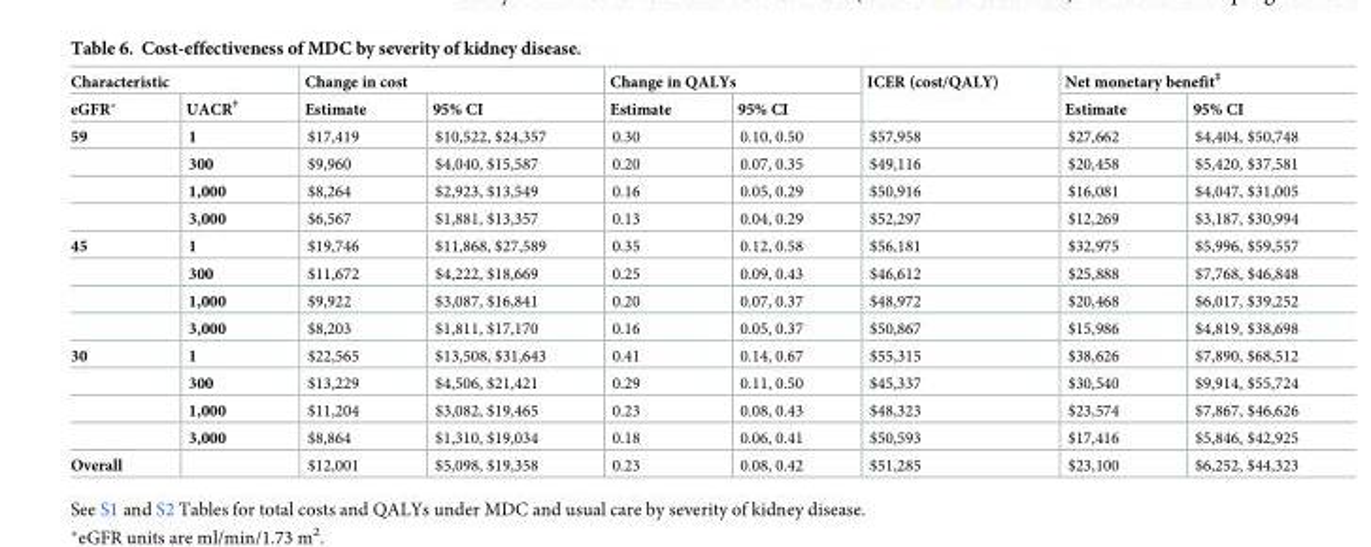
<table><thead><tr><td colspan="2">Characteristic</td><td colspan="2">Change in cost</td><td colspan="2">Change in QALYs</td><td rowspan="2">ICER (cost/QALY)</td><td colspan="2">Net monetary benefit<sup>‡</sup></td></tr><tr><td>eGFR*</td><td>UACR<sup>†</sup></td><td>Estimate</td><td>95% CI</td><td>Estimate</td><td>95% CI</td><td>Estimate</td><td>95% CI</td></tr></thead><tbody><tr><td rowspan="4">59</td><td>1</td><td>$17,419</td><td>$10,522, $24,357</td><td>0.30</td><td>0.10, 0.50</td><td>$57,958</td><td>$27,662</td><td>$4,404, $50,748</td></tr><tr><td>300</td><td>$9,960</td><td>$4,040, $15,587</td><td>0.20</td><td>0.07, 0.35</td><td>$49,116</td><td>$20,458</td><td>$5,420, $37,581</td></tr><tr><td>1,000</td><td>$8,264</td><td>$2,923, $13,549</td><td>0.16</td><td>0.05, 0.29</td><td>$50,916</td><td>$16,081</td><td>$4,047, $31,005</td></tr><tr><td>3,000</td><td>$6,567</td><td>$1,881, $13,357</td><td>0.13</td><td>0.04, 0.29</td><td>$52,297</td><td>$12,269</td><td>$3,187, $30,994</td></tr><tr><td rowspan="4">45</td><td>1</td><td>$19,746</td><td>$11,868, $27,589</td><td>0.35</td><td>0.12, 0.58</td><td>$56,181</td><td>$32,975</td><td>$5,996, $59,557</td></tr><tr><td>300</td><td>$11,672</td><td>$4,222, $18,669</td><td>0.25</td><td>0.09, 0.43</td><td>$46,612</td><td>$25,888</td><td>$7,768, $46,848</td></tr><tr><td>1,000</td><td>$9,922</td><td>$3,087, $16,841</td><td>0.20</td><td>0.07, 0.37</td><td>$48,972</td><td>$20,468</td><td>$6,017, $39,252</td></tr><tr><td>3,000</td><td>$8,203</td><td>$1,811, $17,170</td><td>0.16</td><td>0.05, 0.37</td><td>$50,867</td><td>$15,986</td><td>$4,819, $38,698</td></tr><tr><td rowspan="4">30</td><td>1</td><td>$22,565</td><td>$13,508, $31,643</td><td>0.41</td><td>0.14, 0.67</td><td>$55,315</td><td>$38,626</td><td>$7,890, $68,512</td></tr><tr><td>300</td><td>$13,229</td><td>$4,506, $21,421</td><td>0.29</td><td>0.11, 0.50</td><td>$45,337</td><td>$30,540</td><td>$9,914, $55,724</td></tr><tr><td>1,000</td><td>$11,204</td><td>$3,082, $19,465</td><td>0.23</td><td>0.08, 0.43</td><td>$48,323</td><td>$23,574</td><td>$7,867, $46,626</td></tr><tr><td>3,000</td><td>$8,864</td><td>$1,310, $19,034</td><td>0.18</td><td>0.06, 0.41</td><td>$50,593</td><td>$17,416</td><td>$5,846, $42,925</td></tr><tr><td>Overall</td><td></td><td>$12,001</td><td>$5,098, $19,358</td><td>0.23</td><td>0.08, 0.42</td><td>$51,285</td><td>$23,100</td><td>$6,252, $44,323</td></tr></tbody></table>